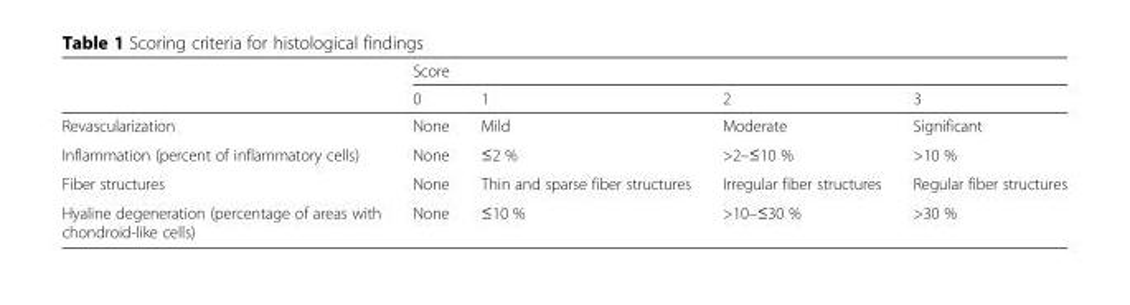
<table><thead><tr><td rowspan="2"></td><td colspan="4">Score</td></tr><tr><td>0</td><td>1</td><td>2</td><td>3</td></tr></thead><tbody><tr><td>Revascularization</td><td>None</td><td>Mild</td><td>Moderate</td><td>Significant</td></tr><tr><td>Inflammation (percent of inflammatory cells)</td><td>None</td><td>≤2 %</td><td>&gt;2–≤10 %</td><td>&gt;10 %</td></tr><tr><td>Fiber structures</td><td>None</td><td>Thin and sparse fiber structures</td><td>Irregular fiber structures</td><td>Regular fiber structures</td></tr><tr><td>Hyaline degeneration (percentage of areas with chondroid-like cells)</td><td>None</td><td>≤10 %</td><td>&gt;10–≤30 %</td><td>&gt;30 %</td></tr></tbody></table>